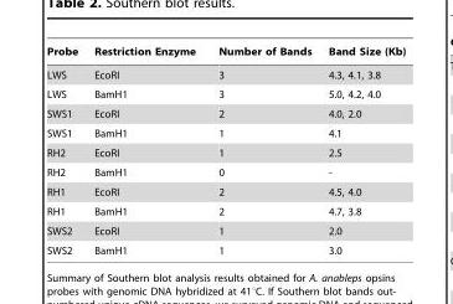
<table><thead><tr><td>Probe</td><td>Restriction Enzyme</td><td>Number of Bands</td><td>Band Size (Kb)</td></tr></thead><tbody><tr><td>LWS</td><td>EcoRI</td><td>3</td><td>4.3, 4.1, 3.8</td></tr><tr><td>LWS</td><td>BamH1</td><td>3</td><td>5.0, 4.2, 4.0</td></tr><tr><td>SWS1</td><td>EcoRI</td><td>2</td><td>4.0, 2.0</td></tr><tr><td>SWS1</td><td>BamH1</td><td>1</td><td>4.1</td></tr><tr><td>RH2</td><td>EcoRI</td><td>1</td><td>2.5</td></tr><tr><td>RH2</td><td>BamH1</td><td>0</td><td>-</td></tr><tr><td>RH1</td><td>EcoRI</td><td>2</td><td>4.5, 4.0</td></tr><tr><td>RH1</td><td>BamH1</td><td>2</td><td>4.7, 3.8</td></tr><tr><td>SWS2</td><td>EcoRI</td><td>1</td><td>2.0</td></tr><tr><td>SWS2</td><td>BamH1</td><td>1</td><td>3.0</td></tr></tbody></table>